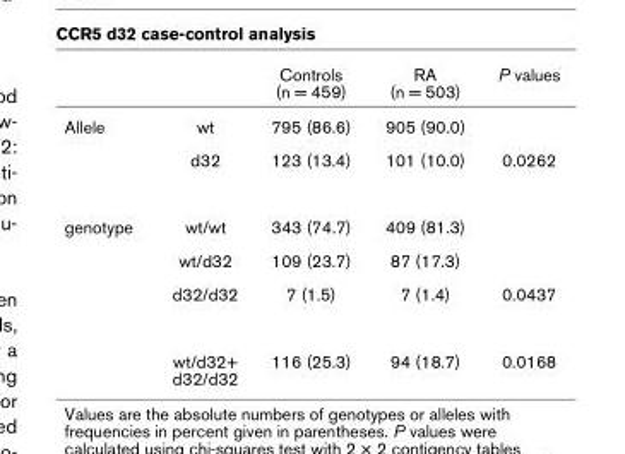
<table><thead><tr><td></td><td></td><td>Controls (n = 459)</td><td>RA (n = 503)</td><td>P values</td></tr></thead><tbody><tr><td rowspan="2">Allele</td><td>wt</td><td>795 (86.6)</td><td>905 (90.0)</td><td></td></tr><tr><td>d32</td><td>123 (13.4)</td><td>101 (10.0)</td><td>0.0262</td></tr><tr><td rowspan="4">genotype</td><td>wt/wt</td><td>343 (74.7)</td><td>409 (81.3)</td><td></td></tr><tr><td>wt/d32</td><td>109 (23.7)</td><td>87 (17.3)</td><td></td></tr><tr><td>d32/d32</td><td>7 (1.5)</td><td>7 (1.4)</td><td>0.0437</td></tr><tr><td>wt/d32+ d32/d32</td><td>116 (25.3)</td><td>94 (18.7)</td><td>0.0168</td></tr></tbody></table>